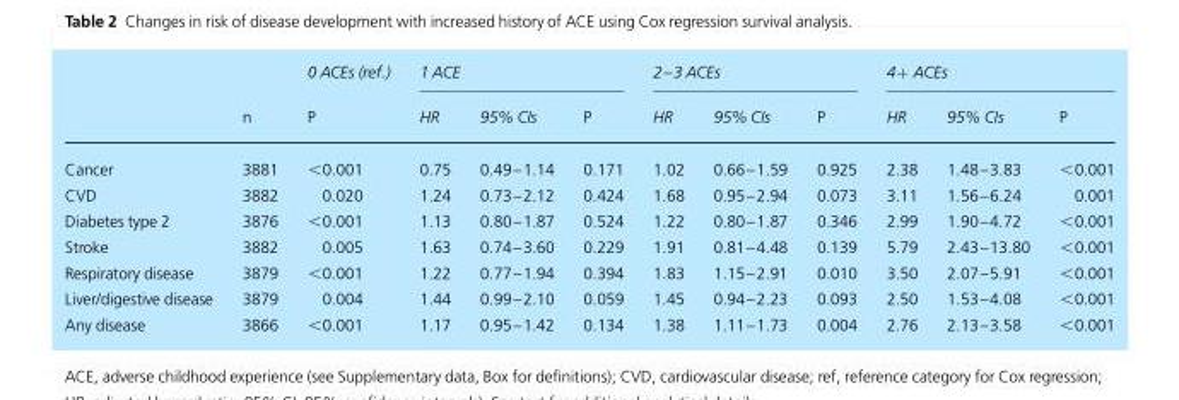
<table><thead><tr><td rowspan="2"></td><td rowspan="2">n</td><td rowspan="2">0 ACEs (ref.) P</td><td colspan="3">1 ACE</td><td colspan="3">2–3 ACEs</td><td colspan="3">4+ ACEs</td></tr><tr><td>HR</td><td>95% CIs</td><td>P</td><td>HR</td><td>95% CIs</td><td>P</td><td>HR</td><td>95% CIs</td><td>P</td></tr></thead><tbody><tr><td>Cancer</td><td>3881</td><td>&lt;0.001</td><td>0.75</td><td>0.49–1.14</td><td>0.171</td><td>1.02</td><td>0.66–1.59</td><td>0.925</td><td>2.38</td><td>1.48–3.83</td><td>&lt;0.001</td></tr><tr><td>CVD</td><td>3882</td><td>0.020</td><td>1.24</td><td>0.73–2.12</td><td>0.424</td><td>1.68</td><td>0.95–2.94</td><td>0.073</td><td>3.11</td><td>1.56–6.24</td><td>0.001</td></tr><tr><td>Diabetes type 2</td><td>3876</td><td>&lt;0.001</td><td>1.13</td><td>0.80–1.87</td><td>0.524</td><td>1.22</td><td>0.80–1.87</td><td>0.346</td><td>2.99</td><td>1.90–4.72</td><td>&lt;0.001</td></tr><tr><td>Stroke</td><td>3882</td><td>0.005</td><td>1.63</td><td>0.74–3.60</td><td>0.229</td><td>1.91</td><td>0.81–4.48</td><td>0.139</td><td>5.79</td><td>2.43–13.80</td><td>&lt;0.001</td></tr><tr><td>Respiratory disease</td><td>3879</td><td>&lt;0.001</td><td>1.22</td><td>0.77–1.94</td><td>0.394</td><td>1.83</td><td>1.15–2.91</td><td>0.010</td><td>3.50</td><td>2.07–5.91</td><td>&lt;0.001</td></tr><tr><td>Liver/digestive disease</td><td>3879</td><td>0.004</td><td>1.44</td><td>0.99–2.10</td><td>0.059</td><td>1.45</td><td>0.94–2.23</td><td>0.093</td><td>2.50</td><td>1.53–4.08</td><td>&lt;0.001</td></tr><tr><td>Any disease</td><td>3866</td><td>&lt;0.001</td><td>1.17</td><td>0.95–1.42</td><td>0.134</td><td>1.38</td><td>1.11–1.73</td><td>0.004</td><td>2.76</td><td>2.13–3.58</td><td>&lt;0.001</td></tr></tbody></table>